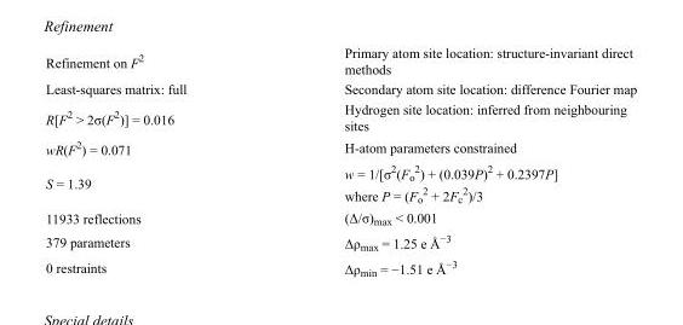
<table><tbody><tr><td>Refinement on F<sup>2</sup></td><td>Primary atom site location: structure-invariant direct methods</td></tr><tr><td>Least-squares matrix: full</td><td>Secondary atom site location: difference Fourier map</td></tr><tr><td>R[F<sup>2</sup> &gt; 2σ(F<sup>2</sup>)] = 0.016</td><td>Hydrogen site location: inferred from neighbouring sites</td></tr><tr><td>wR(F<sup>2</sup>) = 0.071</td><td>H-atom parameters constrained</td></tr><tr><td>S = 1.39</td><td>w = 1/[σ<sup>2</sup>(F<sub>o</sub> <sup>2</sup>) + (0.039P)<sup>2</sup> + 0.2397P] where P = (F<sub>o</sub> <sup>2</sup> + 2F<sub>c</sub> <sup>2</sup>)/3</td></tr><tr><td>11933 reflections</td><td>(Δ/σ)<sub>max</sub> &lt; 0.001</td></tr><tr><td>379 parameters</td><td>Δρ<sub>max</sub> = 1.25 e Å<sup>−3</sup></td></tr><tr><td>0 restraints</td><td>Δρ<sub>min</sub> = −1.51 e Å<sup>−3</sup></td></tr></tbody></table>